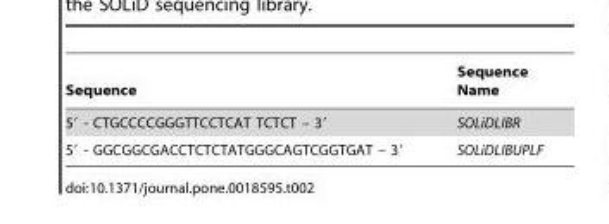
<table><thead><tr><td>Sequence</td><td>Sequence Name</td></tr></thead><tbody><tr><td>5′ - CTGCCCCGGGTTCCTCAT TCTCT – 3′</td><td>SOLiDLIBR</td></tr><tr><td>5′ - GGCGGCGACCTCTCTATGGGCAGTCGGTGAT – 3′</td><td>SOLiDLIBUPLF</td></tr></tbody></table>